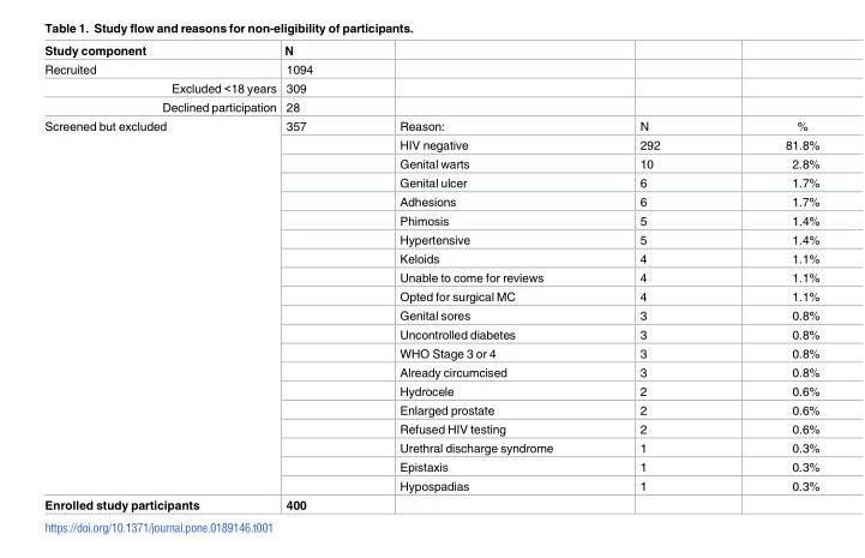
<table><thead><tr><td>Study component</td><td>N</td><td></td><td></td><td></td></tr></thead><tbody><tr><td>Recruited</td><td>1094</td><td></td><td></td><td></td></tr><tr><td>Excluded &lt;18 years</td><td>309</td><td></td><td></td><td></td></tr><tr><td>Declined participation</td><td>28</td><td></td><td></td><td></td></tr><tr><td rowspan="20">Screened but excluded</td><td>357</td><td>Reason:</td><td>N</td><td>%</td></tr><tr><td></td><td>HIV negative</td><td>292</td><td>81.8%</td></tr><tr><td></td><td>Genital warts</td><td>10</td><td>2.8%</td></tr><tr><td></td><td>Genital ulcer</td><td>6</td><td>1.7%</td></tr><tr><td></td><td>Adhesions</td><td>6</td><td>1.7%</td></tr><tr><td></td><td>Phimosis</td><td>5</td><td>1.4%</td></tr><tr><td></td><td>Hypertensive</td><td>5</td><td>1.4%</td></tr><tr><td></td><td>Keloids</td><td>4</td><td>1.1%</td></tr><tr><td></td><td>Unable to come for reviews</td><td>4</td><td>1.1%</td></tr><tr><td></td><td>Opted for surgical MC</td><td>4</td><td>1.1%</td></tr><tr><td></td><td>Genital sores</td><td>3</td><td>0.8%</td></tr><tr><td></td><td>Uncontrolled diabetes</td><td>3</td><td>0.8%</td></tr><tr><td></td><td>WHO Stage 3 or 4</td><td>3</td><td>0.8%</td></tr><tr><td></td><td>Already circumcised</td><td>3</td><td>0.8%</td></tr><tr><td></td><td>Hydrocele</td><td>2</td><td>0.6%</td></tr><tr><td></td><td>Enlarged prostate</td><td>2</td><td>0.6%</td></tr><tr><td></td><td>Refused HIV testing</td><td>2</td><td>0.6%</td></tr><tr><td></td><td>Urethral discharge syndrome</td><td>1</td><td>0.3%</td></tr><tr><td></td><td>Epistaxis</td><td>1</td><td>0.3%</td></tr><tr><td></td><td>Hypospadias</td><td>1</td><td>0.3%</td></tr><tr><td>Enrolled study participants</td><td>400</td><td></td><td></td><td></td></tr></tbody></table>